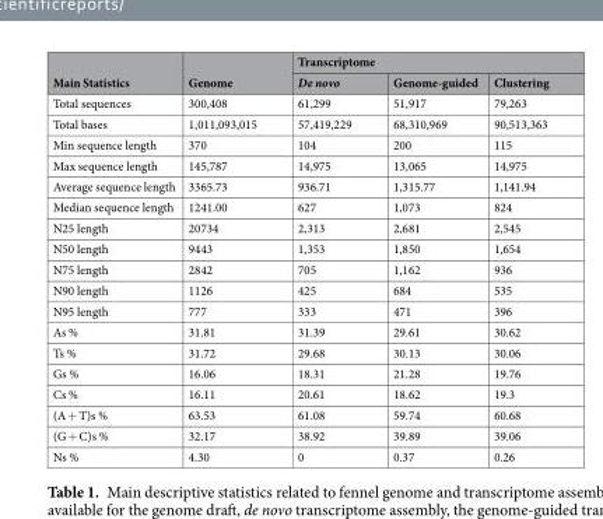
<table><thead><tr><td rowspan="2">Main Statistics</td><td rowspan="2">Genome</td><td colspan="3">Transcriptome</td></tr><tr><td>De novo</td><td>Genome-guided</td><td>Clustering</td></tr></thead><tbody><tr><td>Total sequences</td><td>300,408</td><td>61,299</td><td>51,917</td><td>79,263</td></tr><tr><td>Total bases</td><td>1,011,093,015</td><td>57,419,229</td><td>68,310,969</td><td>90,513,363</td></tr><tr><td>Min sequence length</td><td>370</td><td>104</td><td>200</td><td>115</td></tr><tr><td>Max sequence length</td><td>145,787</td><td>14,975</td><td>13,065</td><td>14,975</td></tr><tr><td>Average sequence length</td><td>3365.73</td><td>936.71</td><td>1,315.77</td><td>1,141.94</td></tr><tr><td>Median sequence length</td><td>1241.00</td><td>627</td><td>1,073</td><td>824</td></tr><tr><td>N25 length</td><td>20734</td><td>2,313</td><td>2,681</td><td>2,545</td></tr><tr><td>N50 length</td><td>9443</td><td>1,353</td><td>1,850</td><td>1,654</td></tr><tr><td>N75 length</td><td>2842</td><td>705</td><td>1,162</td><td>936</td></tr><tr><td>N90 length</td><td>1126</td><td>425</td><td>684</td><td>535</td></tr><tr><td>N95 length</td><td>777</td><td>333</td><td>471</td><td>396</td></tr><tr><td>As %</td><td>31.81</td><td>31.39</td><td>29.61</td><td>30.62</td></tr><tr><td>Ts %</td><td>31.72</td><td>29.68</td><td>30.13</td><td>30.06</td></tr><tr><td>Gs %</td><td>16.06</td><td>18.31</td><td>21.28</td><td>19.76</td></tr><tr><td>Cs %</td><td>16.11</td><td>20.61</td><td>18.62</td><td>19.3</td></tr><tr><td>(A + T)s %</td><td>63.53</td><td>61.08</td><td>59.74</td><td>60.68</td></tr><tr><td>(G + C)s %</td><td>32.17</td><td>38.92</td><td>39.89</td><td>39.06</td></tr><tr><td>Ns %</td><td>4.30</td><td>0</td><td>0.37</td><td>0.26</td></tr></tbody></table>